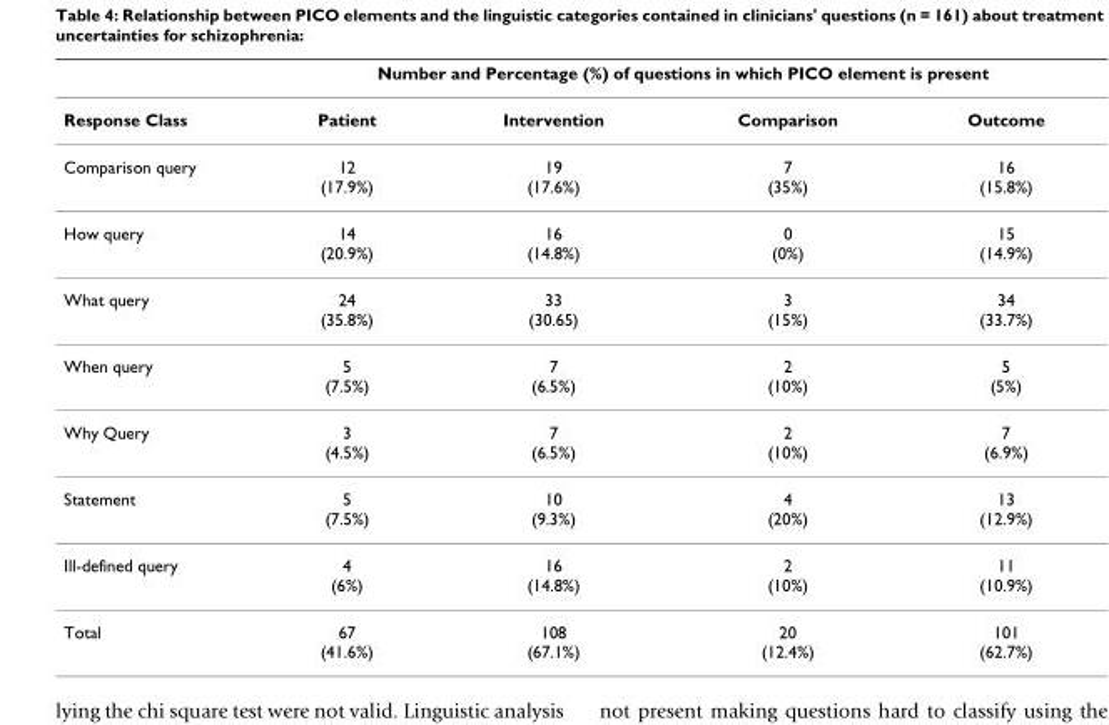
<table><thead><tr><td rowspan="2">Response Class</td><td colspan="4">Number and Percentage (%) of questions in which PICO element is present</td></tr><tr><td>Patient</td><td>Intervention</td><td>Comparison</td><td>Outcome</td></tr></thead><tbody><tr><td>Comparison query</td><td>12 (17.9%)</td><td>19 (17.6%)</td><td>7 (35%)</td><td>16 (15.8%)</td></tr><tr><td>How query</td><td>14 (20.9%)</td><td>16 (14.8%)</td><td>0 (0%)</td><td>15 (14.9%)</td></tr><tr><td>What query</td><td>24 (35.8%)</td><td>33 (30.65)</td><td>3 (15%)</td><td>34 (33.7%)</td></tr><tr><td>When query</td><td>5 (7.5%)</td><td>7 (6.5%)</td><td>2 (10%)</td><td>5 (5%)</td></tr><tr><td>Why Query</td><td>3 (4.5%)</td><td>7 (6.5%)</td><td>2 (10%)</td><td>7 (6.9%)</td></tr><tr><td>Statement</td><td>5 (7.5%)</td><td>10 (9.3%)</td><td>4 (20%)</td><td>13 (12.9%)</td></tr><tr><td>Ill-defined query</td><td>4 (6%)</td><td>16 (14.8%)</td><td>2 (10%)</td><td>11 (10.9%)</td></tr><tr><td>Total</td><td>67 (41.6%)</td><td>108 (67.1%)</td><td>20 (12.4%)</td><td>101 (62.7%)</td></tr></tbody></table>